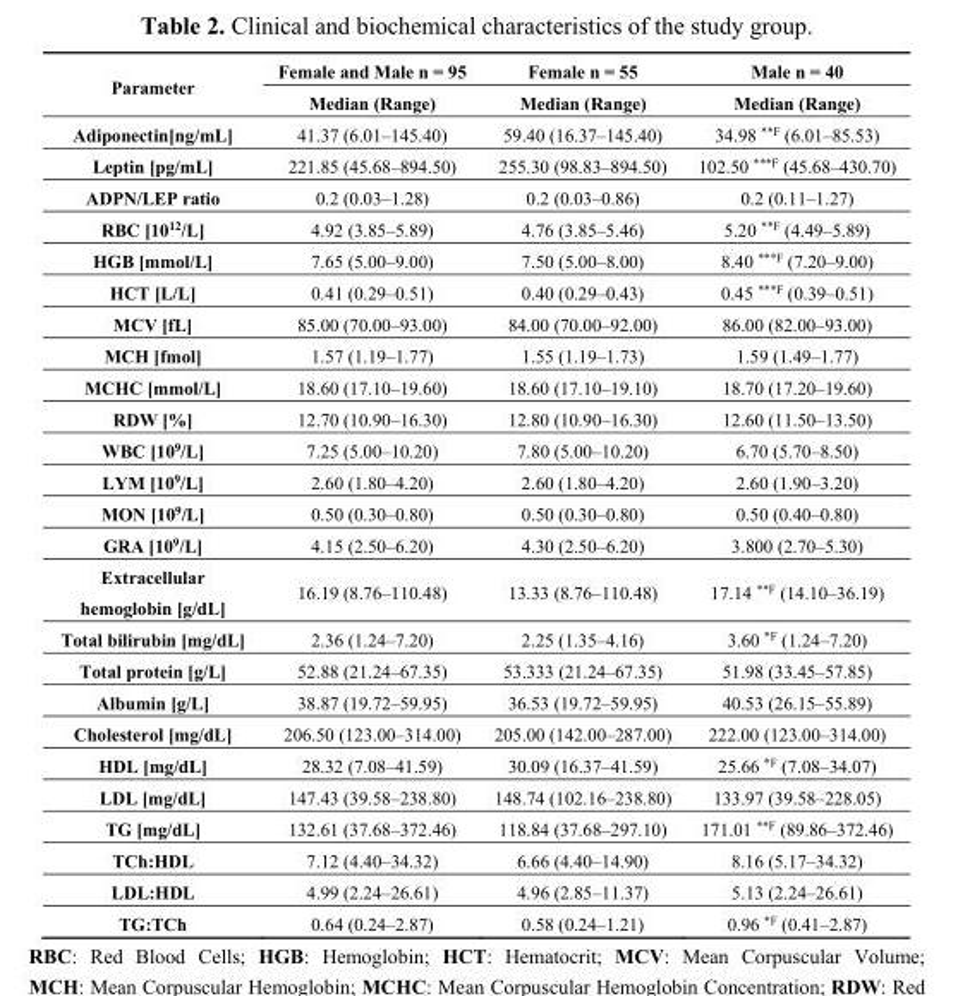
<table><thead><tr><td rowspan="2">Parameter</td><td rowspan="2">Female and Male n = 95 Median (Range)</td><td rowspan="2">Female n = 55 Median (Range)</td><td rowspan="2">Male n = 40 Median (Range)</td></tr><tr></tr></thead><tbody><tr><td>Adiponectin[ng/mL]</td><td>41.37 (6.01–145.40)</td><td>59.40 (16.37–145.40)</td><td>34.98 <sup>**F</sup> (6.01–85.53)</td></tr><tr><td>Leptin [pg/mL]</td><td>221.85 (45.68–894.50)</td><td>255.30 (98.83–894.50)</td><td>102.50 <sup>***F</sup> (45.68–430.70)</td></tr><tr><td>ADPN/LEP ratio</td><td>0.2 (0.03–1.28)</td><td>0.2 (0.03–0.86)</td><td>0.2 (0.11–1.27)</td></tr><tr><td>RBC [10<sup>12</sup>/L]</td><td>4.92 (3.85–5.89)</td><td>4.76 (3.85–5.46)</td><td>5.20 <sup>**F</sup> (4.49–5.89)</td></tr><tr><td>HGB [mmol/L]</td><td>7.65 (5.00–9.00)</td><td>7.50 (5.00–8.00)</td><td>8.40 <sup>***F</sup> (7.20–9.00)</td></tr><tr><td>HCT [L/L]</td><td>0.41 (0.29–0.51)</td><td>0.40 (0.29–0.43)</td><td>0.45 <sup>***F</sup> (0.39–0.51)</td></tr><tr><td>MCV [fL]</td><td>85.00 (70.00–93.00)</td><td>84.00 (70.00–92.00)</td><td>86.00 (82.00–93.00)</td></tr><tr><td>MCH [fmol]</td><td>1.57 (1.19–1.77)</td><td>1.55 (1.19–1.73)</td><td>1.59 (1.49–1.77)</td></tr><tr><td>MCHC [mmol/L]</td><td>18.60 (17.10–19.60)</td><td>18.60 (17.10–19.10)</td><td>18.70 (17.20–19.60)</td></tr><tr><td>RDW [%]</td><td>12.70 (10.90–16.30)</td><td>12.80 (10.90–16.30)</td><td>12.60 (11.50–13.50)</td></tr><tr><td>WBC [10<sup>9</sup>/L]</td><td>7.25 (5.00–10.20)</td><td>7.80 (5.00–10.20)</td><td>6.70 (5.70–8.50)</td></tr><tr><td>LYM [10<sup>9</sup>/L]</td><td>2.60 (1.80–4.20)</td><td>2.60 (1.80–4.20)</td><td>2.60 (1.90–3.20)</td></tr><tr><td>MON [10<sup>9</sup>/L]</td><td>0.50 (0.30–0.80)</td><td>0.50 (0.30–0.80)</td><td>0.50 (0.40–0.80)</td></tr><tr><td>GRA [10<sup>9</sup>/L]</td><td>4.15 (2.50–6.20)</td><td>4.30 (2.50–6.20)</td><td>3.800 (2.70–5.30)</td></tr><tr><td>Extracellular hemoglobin [g/dL]</td><td>16.19 (8.76–110.48)</td><td>13.33 (8.76–110.48)</td><td>17.14 <sup>**F</sup> (14.10–36.19)</td></tr><tr><td>Total bilirubin [mg/dL]</td><td>2.36 (1.24–7.20)</td><td>2.25 (1.35–4.16)</td><td>3.60 <sup>*F</sup> (1.24–7.20)</td></tr><tr><td>Total protein [g/L]</td><td>52.88 (21.24–67.35)</td><td>53.333 (21.24–67.35)</td><td>51.98 (33.45–57.85)</td></tr><tr><td>Albumin [g/L]</td><td>38.87 (19.72–59.95)</td><td>36.53 (19.72–59.95)</td><td>40.53 (26.15–55.89)</td></tr><tr><td>Cholesterol [mg/dL]</td><td>206.50 (123.00–314.00)</td><td>205.00 (142.00–287.00)</td><td>222.00 (123.00–314.00)</td></tr><tr><td>HDL [mg/dL]</td><td>28.32 (7.08–41.59)</td><td>30.09 (16.37–41.59)</td><td>25.66 <sup>*F</sup> (7.08–34.07)</td></tr><tr><td>LDL [mg/dL]</td><td>147.43 (39.58–238.80)</td><td>148.74 (102.16–238.80)</td><td>133.97 (39.58–228.05)</td></tr><tr><td>TG [mg/dL]</td><td>132.61 (37.68–372.46)</td><td>118.84 (37.68–297.10)</td><td>171.01 <sup>**F</sup> (89.86–372.46)</td></tr><tr><td>TCh:HDL</td><td>7.12 (4.40–34.32)</td><td>6.66 (4.40–14.90)</td><td>8.16 (5.17–34.32)</td></tr><tr><td>LDL:HDL</td><td>4.99 (2.24–26.61)</td><td>4.96 (2.85–11.37)</td><td>5.13 (2.24–26.61)</td></tr><tr><td>TG:TCh</td><td>0.64 (0.24–2.87)</td><td>0.58 (0.24–1.21)</td><td>0.96 <sup>*F</sup> (0.41–2.87)</td></tr></tbody></table>